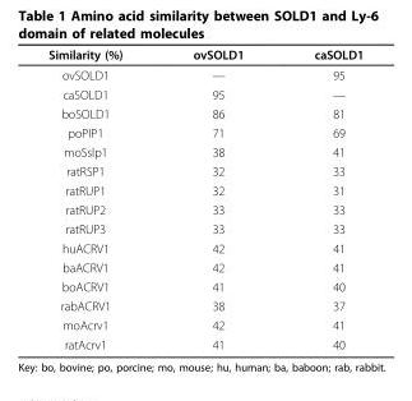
<table><thead><tr><td>Similarity (%)</td><td>ovSOLD1</td><td>caSOLD1</td></tr></thead><tbody><tr><td>ovSOLD1</td><td>—</td><td>95</td></tr><tr><td>caSOLD1</td><td>95</td><td>—</td></tr><tr><td>boSOLD1</td><td>86</td><td>81</td></tr><tr><td>poPIP1</td><td>71</td><td>69</td></tr><tr><td>moSslp1</td><td>38</td><td>41</td></tr><tr><td>ratRSP1</td><td>32</td><td>33</td></tr><tr><td>ratRUP1</td><td>32</td><td>31</td></tr><tr><td>ratRUP2</td><td>33</td><td>33</td></tr><tr><td>ratRUP3</td><td>33</td><td>33</td></tr><tr><td>huACRV1</td><td>42</td><td>41</td></tr><tr><td>baACRV1</td><td>42</td><td>41</td></tr><tr><td>boACRV1</td><td>41</td><td>40</td></tr><tr><td>rabACRV1</td><td>38</td><td>37</td></tr><tr><td>moAcrv1</td><td>42</td><td>41</td></tr><tr><td>ratAcrv1</td><td>41</td><td>40</td></tr></tbody></table>